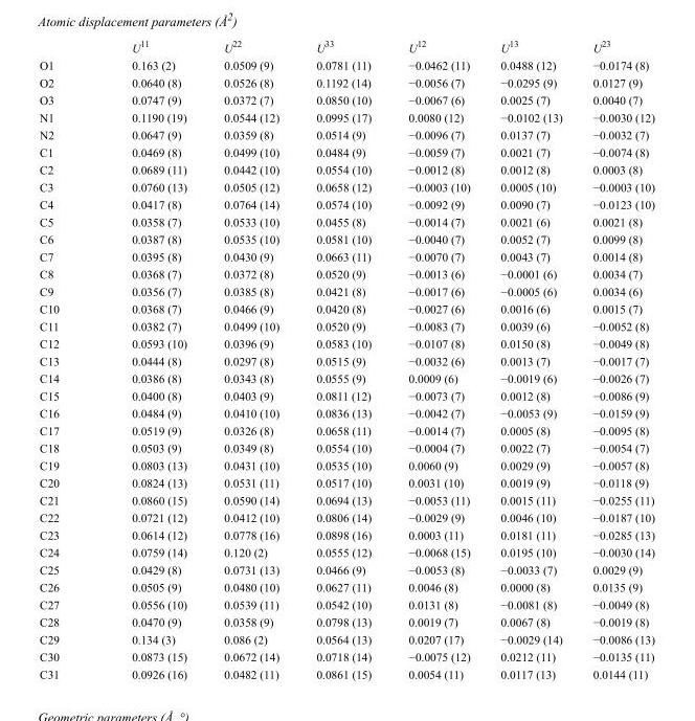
<table><thead><tr><td></td><td>U<sup>11</sup></td><td>U<sup>22</sup></td><td>U<sup>33</sup></td><td>U<sup>12</sup></td><td>U<sup>13</sup></td><td>U<sup>23</sup></td></tr></thead><tbody><tr><td>O1</td><td>0.163 (2)</td><td>0.0509 (9)</td><td>0.0781 (11)</td><td>−0.0462 (11)</td><td>0.0488 (12)</td><td>−0.0174 (8)</td></tr><tr><td>O2</td><td>0.0640 (8)</td><td>0.0526 (8)</td><td>0.1192 (14)</td><td>−0.0056 (7)</td><td>−0.0295 (9)</td><td>0.0127 (9)</td></tr><tr><td>O3</td><td>0.0747 (9)</td><td>0.0372 (7)</td><td>0.0850 (10)</td><td>−0.0067 (6)</td><td>0.0025 (7)</td><td>0.0040 (7)</td></tr><tr><td>N1</td><td>0.1190 (19)</td><td>0.0544 (12)</td><td>0.0995 (17)</td><td>0.0080 (12)</td><td>−0.0102 (13)</td><td>−0.0030 (12)</td></tr><tr><td>N2</td><td>0.0647 (9)</td><td>0.0359 (8)</td><td>0.0514 (9)</td><td>−0.0096 (7)</td><td>0.0137 (7)</td><td>−0.0032 (7)</td></tr><tr><td>C1</td><td>0.0469 (8)</td><td>0.0499 (10)</td><td>0.0484 (9)</td><td>−0.0059 (7)</td><td>0.0021 (7)</td><td>−0.0074 (8)</td></tr><tr><td>C2</td><td>0.0689 (11)</td><td>0.0442 (10)</td><td>0.0554 (10)</td><td>−0.0012 (8)</td><td>0.0012 (8)</td><td>0.0003 (8)</td></tr><tr><td>C3</td><td>0.0760 (13)</td><td>0.0505 (12)</td><td>0.0658 (12)</td><td>−0.0003 (10)</td><td>0.0005 (10)</td><td>−0.0003 (10)</td></tr><tr><td>C4</td><td>0.0417 (8)</td><td>0.0764 (14)</td><td>0.0574 (10)</td><td>−0.0092 (9)</td><td>0.0090 (7)</td><td>−0.0123 (10)</td></tr><tr><td>C5</td><td>0.0358 (7)</td><td>0.0533 (10)</td><td>0.0455 (8)</td><td>−0.0014 (7)</td><td>0.0021 (6)</td><td>0.0021 (8)</td></tr><tr><td>C6</td><td>0.0387 (8)</td><td>0.0535 (10)</td><td>0.0581 (10)</td><td>−0.0040 (7)</td><td>0.0052 (7)</td><td>0.0099 (8)</td></tr><tr><td>C7</td><td>0.0395 (8)</td><td>0.0430 (9)</td><td>0.0663 (11)</td><td>−0.0070 (7)</td><td>0.0043 (7)</td><td>0.0014 (8)</td></tr><tr><td>C8</td><td>0.0368 (7)</td><td>0.0372 (8)</td><td>0.0520 (9)</td><td>−0.0013 (6)</td><td>−0.0001 (6)</td><td>0.0034 (7)</td></tr><tr><td>C9</td><td>0.0356 (7)</td><td>0.0385 (8)</td><td>0.0421 (8)</td><td>−0.0017 (6)</td><td>−0.0005 (6)</td><td>0.0034 (6)</td></tr><tr><td>C10</td><td>0.0368 (7)</td><td>0.0466 (9)</td><td>0.0420 (8)</td><td>−0.0027 (6)</td><td>0.0016 (6)</td><td>0.0015 (7)</td></tr><tr><td>C11</td><td>0.0382 (7)</td><td>0.0499 (10)</td><td>0.0520 (9)</td><td>−0.0083 (7)</td><td>0.0039 (6)</td><td>−0.0052 (8)</td></tr><tr><td>C12</td><td>0.0593 (10)</td><td>0.0396 (9)</td><td>0.0583 (10)</td><td>−0.0107 (8)</td><td>0.0150 (8)</td><td>−0.0049 (8)</td></tr><tr><td>C13</td><td>0.0444 (8)</td><td>0.0297 (8)</td><td>0.0515 (9)</td><td>−0.0032 (6)</td><td>0.0013 (7)</td><td>−0.0017 (7)</td></tr><tr><td>C14</td><td>0.0386 (8)</td><td>0.0343 (8)</td><td>0.0555 (9)</td><td>0.0009 (6)</td><td>−0.0019 (6)</td><td>−0.0026 (7)</td></tr><tr><td>C15</td><td>0.0400 (8)</td><td>0.0403 (9)</td><td>0.0811 (12)</td><td>−0.0073 (7)</td><td>0.0012 (8)</td><td>−0.0086 (9)</td></tr><tr><td>C16</td><td>0.0484 (9)</td><td>0.0410 (10)</td><td>0.0836 (13)</td><td>−0.0042 (7)</td><td>−0.0053 (9)</td><td>−0.0159 (9)</td></tr><tr><td>C17</td><td>0.0519 (9)</td><td>0.0326 (8)</td><td>0.0658 (11)</td><td>−0.0014 (7)</td><td>0.0005 (8)</td><td>−0.0095 (8)</td></tr><tr><td>C18</td><td>0.0503 (9)</td><td>0.0349 (8)</td><td>0.0554 (10)</td><td>−0.0004 (7)</td><td>0.0022 (7)</td><td>−0.0054 (7)</td></tr><tr><td>C19</td><td>0.0803 (13)</td><td>0.0431 (10)</td><td>0.0535 (10)</td><td>0.0060 (9)</td><td>0.0029 (9)</td><td>−0.0057 (8)</td></tr><tr><td>C20</td><td>0.0824 (13)</td><td>0.0531 (11)</td><td>0.0517 (10)</td><td>0.0031 (10)</td><td>0.0019 (9)</td><td>−0.0118 (9)</td></tr><tr><td>C21</td><td>0.0860 (15)</td><td>0.0590 (14)</td><td>0.0694 (13)</td><td>−0.0053 (11)</td><td>0.0015 (11)</td><td>−0.0255 (11)</td></tr><tr><td>C22</td><td>0.0721 (12)</td><td>0.0412 (10)</td><td>0.0806 (14)</td><td>−0.0029 (9)</td><td>0.0046 (10)</td><td>−0.0187 (10)</td></tr><tr><td>C23</td><td>0.0614 (12)</td><td>0.0778 (16)</td><td>0.0898 (16)</td><td>0.0003 (11)</td><td>0.0181 (11)</td><td>−0.0285 (13)</td></tr><tr><td>C24</td><td>0.0759 (14)</td><td>0.120 (2)</td><td>0.0555 (12)</td><td>−0.0068 (15)</td><td>0.0195 (10)</td><td>−0.0030 (14)</td></tr><tr><td>C25</td><td>0.0429 (8)</td><td>0.0731 (13)</td><td>0.0466 (9)</td><td>−0.0053 (8)</td><td>−0.0033 (7)</td><td>0.0029 (9)</td></tr><tr><td>C26</td><td>0.0505 (9)</td><td>0.0480 (10)</td><td>0.0627 (11)</td><td>0.0046 (8)</td><td>0.0000 (8)</td><td>0.0135 (9)</td></tr><tr><td>C27</td><td>0.0556 (10)</td><td>0.0539 (11)</td><td>0.0542 (10)</td><td>0.0131 (8)</td><td>−0.0081 (8)</td><td>−0.0049 (8)</td></tr><tr><td>C28</td><td>0.0470 (9)</td><td>0.0358 (9)</td><td>0.0798 (13)</td><td>0.0019 (7)</td><td>0.0067 (8)</td><td>−0.0019 (8)</td></tr><tr><td>C29</td><td>0.134 (3)</td><td>0.086 (2)</td><td>0.0564 (13)</td><td>0.0207 (17)</td><td>−0.0029 (14)</td><td>−0.0086 (13)</td></tr><tr><td>C30</td><td>0.0873 (15)</td><td>0.0672 (14)</td><td>0.0718 (14)</td><td>−0.0075 (12)</td><td>0.0212 (11)</td><td>−0.0135 (11)</td></tr><tr><td>C31</td><td>0.0926 (16)</td><td>0.0482 (11)</td><td>0.0861 (15)</td><td>0.0054 (11)</td><td>0.0117 (13)</td><td>0.0144 (11)</td></tr></tbody></table>